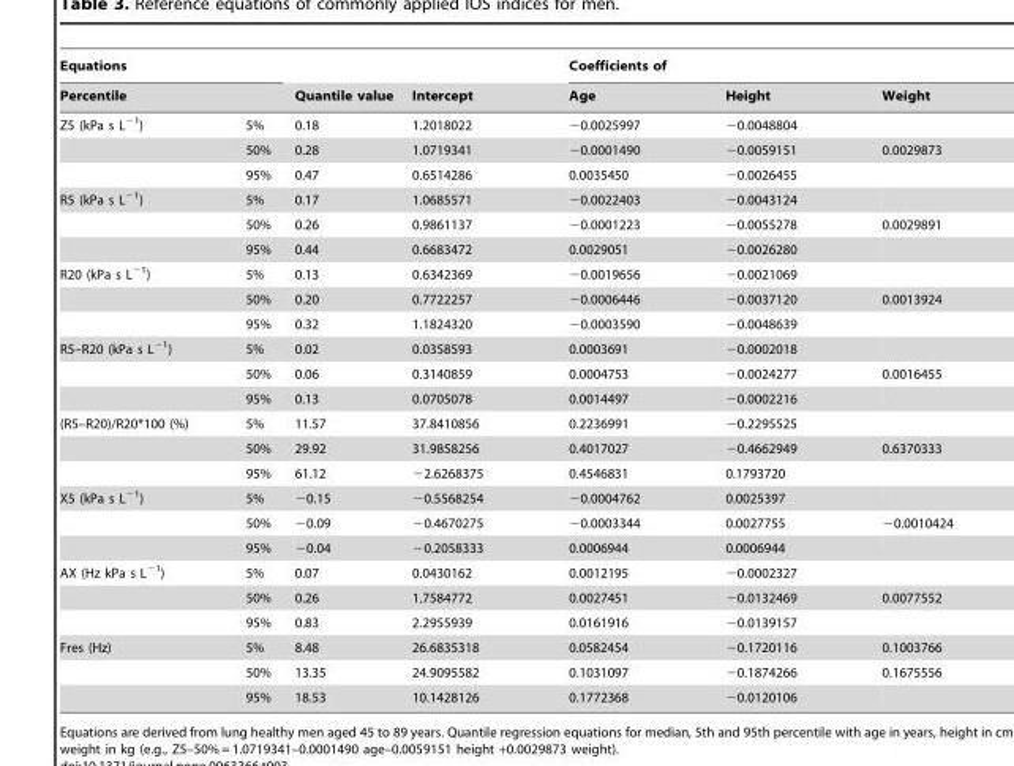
<table><thead><tr><td rowspan="2" colspan="2">Equations Percentile</td><td rowspan="3">Quantile value 0.18</td><td rowspan="3">Intercept 1.2018022</td><td colspan="3">Coefficients of</td></tr><tr><td rowspan="2">Age −0.0025997</td><td rowspan="2">Height −0.0048804</td><td rowspan="2">Weight</td></tr><tr><td>Z5 (kPa s L<sup>−1</sup>)</td><td>5%</td></tr></thead><tbody><tr><td></td><td>50%</td><td>0.28</td><td>1.0719341</td><td>−0.0001490</td><td>−0.0059151</td><td>0.0029873</td></tr><tr><td></td><td>95%</td><td>0.47</td><td>0.6514286</td><td>0.0035450</td><td>−0.0026455</td><td></td></tr><tr><td rowspan="3">R5 (kPa s L<sup>−1</sup>)</td><td>5%</td><td>0.17</td><td>1.0685571</td><td>−0.0022403</td><td>−0.0043124</td><td></td></tr><tr><td>50%</td><td>0.26</td><td>0.9861137</td><td>−0.0001223</td><td>−0.0055278</td><td>0.0029891</td></tr><tr><td>95%</td><td>0.44</td><td>0.6683472</td><td>0.0029051</td><td>−0.0026280</td><td></td></tr><tr><td rowspan="3">R20 (kPa s L<sup>−1</sup>)</td><td>5%</td><td>0.13</td><td>0.6342369</td><td>−0.0019656</td><td>−0.0021069</td><td></td></tr><tr><td>50%</td><td>0.20</td><td>0.7722257</td><td>−0.0006446</td><td>−0.0037120</td><td>0.0013924</td></tr><tr><td>95%</td><td>0.32</td><td>1.1824320</td><td>−0.0003590</td><td>−0.0048639</td><td></td></tr><tr><td rowspan="3">R5–R20 (kPa s L<sup>−1</sup>)</td><td>5%</td><td>0.02</td><td>0.0358593</td><td>0.0003691</td><td>−0.0002018</td><td></td></tr><tr><td>50%</td><td>0.06</td><td>0.3140859</td><td>0.0004753</td><td>−0.0024277</td><td>0.0016455</td></tr><tr><td>95%</td><td>0.13</td><td>0.0705078</td><td>0.0014497</td><td>−0.0002216</td><td></td></tr><tr><td rowspan="3">(R5–R20)/R20*100 (%)</td><td>5%</td><td>11.57</td><td>37.8410856</td><td>0.2236991</td><td>−0.2295525</td><td></td></tr><tr><td>50%</td><td>29.92</td><td>31.9858256</td><td>0.4017027</td><td>−0.4662949</td><td>0.6370333</td></tr><tr><td>95%</td><td>61.12</td><td>−2.6268375</td><td>0.4546831</td><td>0.1793720</td><td></td></tr><tr><td rowspan="3">X5 (kPa s L<sup>−1</sup>)</td><td>5%</td><td>−0.15</td><td>−0.5568254</td><td>−0.0004762</td><td>0.0025397</td><td></td></tr><tr><td>50%</td><td>−0.09</td><td>−0.4670275</td><td>−0.0003344</td><td>0.0027755</td><td>−0.0010424</td></tr><tr><td>95%</td><td>−0.04</td><td>−0.2058333</td><td>0.0006944</td><td>0.0006944</td><td></td></tr><tr><td rowspan="3">AX (Hz kPa s L<sup>−1</sup>)</td><td>5%</td><td>0.07</td><td>0.0430162</td><td>0.0012195</td><td>−0.0002327</td><td></td></tr><tr><td>50%</td><td>0.26</td><td>1.7584772</td><td>0.0027451</td><td>−0.0132469</td><td>0.0077552</td></tr><tr><td>95%</td><td>0.83</td><td>2.2955939</td><td>0.0161916</td><td>−0.0139157</td><td></td></tr><tr><td rowspan="3">Fres (Hz)</td><td>5%</td><td>8.48</td><td>26.6835318</td><td>0.0582454</td><td>−0.1720116</td><td>0.1003766</td></tr><tr><td>50%</td><td>13.35</td><td>24.9095582</td><td>0.1031097</td><td>−0.1874266</td><td>0.1675556</td></tr><tr><td>95%</td><td>18.53</td><td>10.1428126</td><td>0.1772368</td><td>−0.0120106</td><td></td></tr></tbody></table>